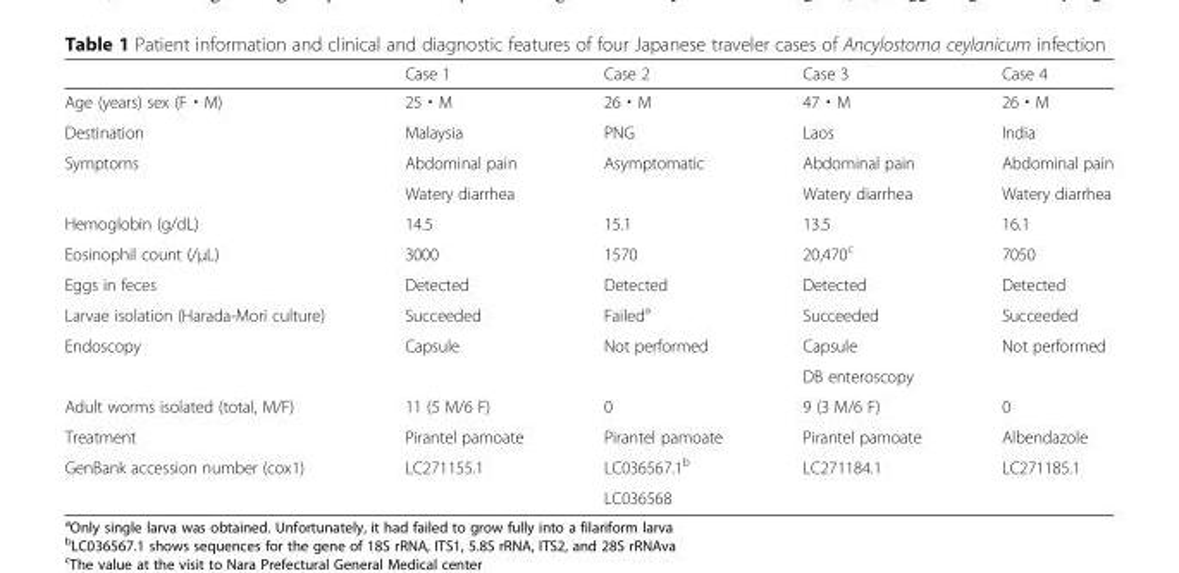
<table><thead><tr><td></td><td>Case 1</td><td>Case 2</td><td>Case 3</td><td>Case 4</td></tr></thead><tbody><tr><td>Age (years) sex (F・M)</td><td>25・M</td><td>26・M</td><td>47・M</td><td>26・M</td></tr><tr><td>Destination</td><td>Malaysia</td><td>PNG</td><td>Laos</td><td>India</td></tr><tr><td rowspan="2">Symptoms</td><td>Abdominal pain</td><td rowspan="2">Asymptomatic</td><td>Abdominal pain</td><td>Abdominal pain</td></tr><tr><td>Watery diarrhea</td><td>Watery diarrhea</td><td>Watery diarrhea</td></tr><tr><td>Hemoglobin (g/dL)</td><td>14.5</td><td>15.1</td><td>13.5</td><td>16.1</td></tr><tr><td>Eosinophil count (/μL)</td><td>3000</td><td>1570</td><td>20,470<sup>c</sup></td><td>7050</td></tr><tr><td>Eggs in feces</td><td>Detected</td><td>Detected</td><td>Detected</td><td>Detected</td></tr><tr><td>Larvae isolation (Harada-Mori culture)</td><td>Succeeded</td><td>Failed<sup>a</sup></td><td>Succeeded</td><td>Succeeded</td></tr><tr><td rowspan="2">Endoscopy</td><td rowspan="2">Capsule</td><td rowspan="2">Not performed</td><td>Capsule</td><td rowspan="2">Not performed</td></tr><tr><td>DB enteroscopy</td></tr><tr><td>Adult worms isolated (total, M/F)</td><td>11 (5 M/6 F)</td><td>0</td><td>9 (3 M/6 F)</td><td>0</td></tr><tr><td>Treatment</td><td>Pirantel pamoate</td><td>Pirantel pamoate</td><td>Pirantel pamoate</td><td>Albendazole</td></tr><tr><td rowspan="2">GenBank accession number (cox1)</td><td rowspan="2">LC271155.1</td><td>LC036567.1<sup>b</sup></td><td rowspan="2">LC271184.1</td><td rowspan="2">LC271185.1</td></tr><tr><td>LC036568</td></tr></tbody></table>